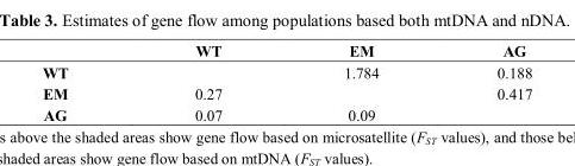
<table><thead><tr><td></td><td>WT</td><td>EM</td><td>AG</td></tr></thead><tbody><tr><td>WT</td><td></td><td>1.784</td><td>0.188</td></tr><tr><td>EM</td><td>0.27</td><td></td><td>0.417</td></tr><tr><td>AG</td><td>0.07</td><td>0.09</td><td></td></tr></tbody></table>